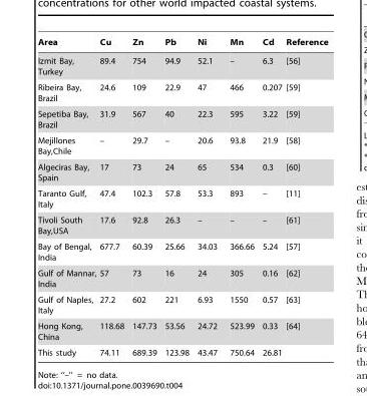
<table><thead><tr><td>Area</td><td>Cu</td><td>Zn</td><td>Pb</td><td>Ni</td><td>Mn</td><td>Cd</td><td>Reference</td></tr></thead><tbody><tr><td>Izmit Bay, Turkey</td><td>89.4</td><td>754</td><td>94.9</td><td>52.1</td><td>–</td><td>6.3</td><td>[56]</td></tr><tr><td>Ribeira Bay, Brazil</td><td>24.6</td><td>109</td><td>22.9</td><td>47</td><td>466</td><td>0.207</td><td>[59]</td></tr><tr><td>Sepetiba Bay, Brazil</td><td>31.9</td><td>567</td><td>40</td><td>22.3</td><td>595</td><td>3.22</td><td>[59]</td></tr><tr><td>Mejillones Bay,Chile</td><td>–</td><td>29.7</td><td>–</td><td>20.6</td><td>93.8</td><td>21.9</td><td>[58]</td></tr><tr><td>Algeciras Bay, Spain</td><td>17</td><td>73</td><td>24</td><td>65</td><td>534</td><td>0.3</td><td>[60]</td></tr><tr><td>Taranto Gulf, Italy</td><td>47.4</td><td>102.3</td><td>57.8</td><td>53.3</td><td>893</td><td>–</td><td>[11]</td></tr><tr><td>Tivoli South Bay,USA</td><td>17.6</td><td>92.8</td><td>26.3</td><td>–</td><td>–</td><td>–</td><td>[61]</td></tr><tr><td>Bay of Bengal, India</td><td>677.7</td><td>60.39</td><td>25.66</td><td>34.03</td><td>366.66</td><td>5.24</td><td>[57]</td></tr><tr><td>Gulf of Mannar, India</td><td>57</td><td>73</td><td>16</td><td>24</td><td>305</td><td>0.16</td><td>[62]</td></tr><tr><td>Gulf of Naples, Italy</td><td>27.2</td><td>602</td><td>221</td><td>6.93</td><td>1550</td><td>0.57</td><td>[63]</td></tr><tr><td>Hong Kong, China</td><td>118.68</td><td>147.73</td><td>53.56</td><td>24.72</td><td>523.99</td><td>0.33</td><td>[64]</td></tr><tr><td>This study</td><td>74.11</td><td>689.39</td><td>123.98</td><td>43.47</td><td>750.64</td><td>26.81</td><td></td></tr></tbody></table>